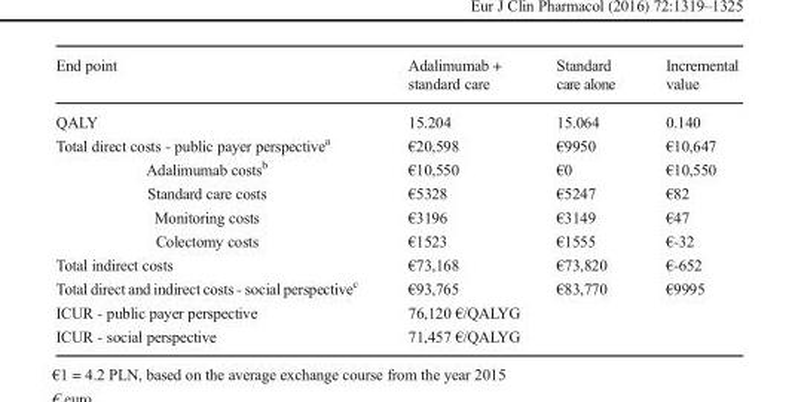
<table><thead><tr><td>End point</td><td>Adalimumab + standard care</td><td>Standard care alone</td><td>Incremental value</td></tr></thead><tbody><tr><td>QALY</td><td>15.204</td><td>15.064</td><td>0.140</td></tr><tr><td>Total direct costs - public payer perspective<sup>a</sup></td><td>€20,598</td><td>€9950</td><td>€10,647</td></tr><tr><td>Adalimumab costs<sup>b</sup></td><td>€10,550</td><td>€0</td><td>€10,550</td></tr><tr><td>Standard care costs</td><td>€5328</td><td>€5247</td><td>€82</td></tr><tr><td>Monitoring costs</td><td>€3196</td><td>€3149</td><td>€47</td></tr><tr><td>Colectomy costs</td><td>€1523</td><td>€1555</td><td>€-32</td></tr><tr><td>Total indirect costs</td><td>€73,168</td><td>€73,820</td><td>€-652</td></tr><tr><td>Total direct and indirect costs - social perspective<sup>c</sup></td><td>€93,765</td><td>€83,770</td><td>€9995</td></tr><tr><td>ICUR - public payer perspective</td><td colspan="3">76,120 €/QALYG</td></tr><tr><td>ICUR - social perspective</td><td colspan="3">71,457 €/QALYG</td></tr></tbody></table>